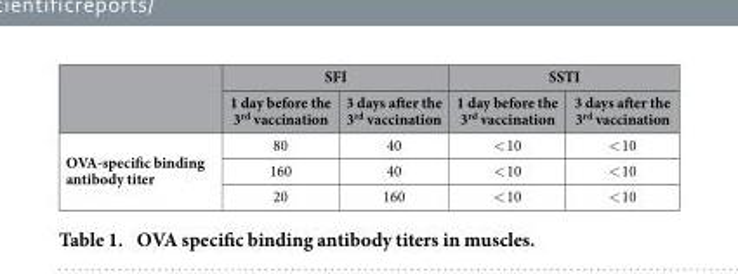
<table><thead><tr><td rowspan="2"></td><td colspan="2">SFI</td><td colspan="2">SSTI</td></tr><tr><td>1 day before the 3<sup>rd</sup> vaccination</td><td>3 days after the 3<sup>rd</sup> vaccination</td><td>1 day before the 3<sup>rd</sup> vaccination</td><td>3 days after the 3<sup>rd</sup> vaccination</td></tr></thead><tbody><tr><td rowspan="3">OVA-specific binding antibody titer</td><td>80</td><td>40</td><td>&lt; 10</td><td>&lt; 10</td></tr><tr><td>160</td><td>40</td><td>&lt; 10</td><td>&lt; 10</td></tr><tr><td>20</td><td>160</td><td>&lt; 10</td><td>&lt; 10</td></tr></tbody></table>